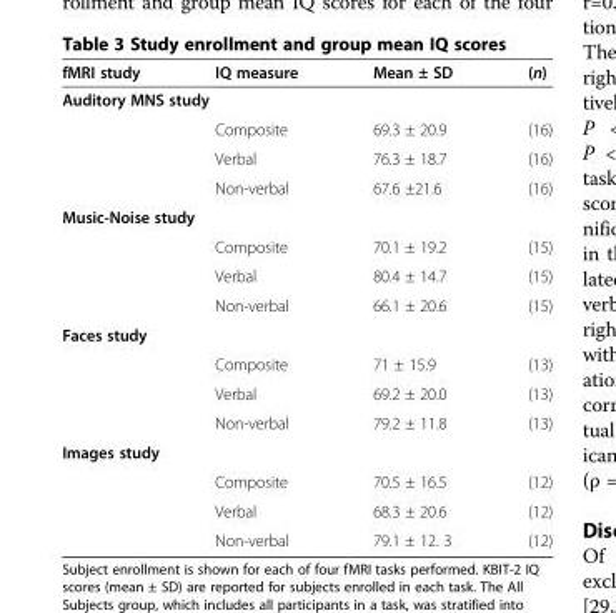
<table><thead><tr><td>fMRI study</td><td>IQ measure</td><td>Mean ± SD</td><td>(n)</td></tr></thead><tbody><tr><td colspan="4">Auditory MNS study</td></tr><tr><td></td><td>Composite</td><td>69.3 ± 20.9</td><td>(16)</td></tr><tr><td></td><td>Verbal</td><td>76.3 ± 18.7</td><td>(16)</td></tr><tr><td></td><td>Non-verbal</td><td>67.6 ±21.6</td><td>(16)</td></tr><tr><td colspan="4">Music-Noise study</td></tr><tr><td></td><td>Composite</td><td>70.1 ± 19.2</td><td>(15)</td></tr><tr><td></td><td>Verbal</td><td>80.4 ± 14.7</td><td>(15)</td></tr><tr><td></td><td>Non-verbal</td><td>66.1 ± 20.6</td><td>(15)</td></tr><tr><td colspan="4">Faces study</td></tr><tr><td></td><td>Composite</td><td>71 ± 15.9</td><td>(13)</td></tr><tr><td></td><td>Verbal</td><td>69.2 ± 20.0</td><td>(13)</td></tr><tr><td></td><td>Non-verbal</td><td>79.2 ± 11.8</td><td>(13)</td></tr><tr><td colspan="4">Images study</td></tr><tr><td></td><td>Composite</td><td>70.5 ± 16.5</td><td>(12)</td></tr><tr><td></td><td>Verbal</td><td>68.3 ± 20.6</td><td>(12)</td></tr><tr><td></td><td>Non-verbal</td><td>79.1 ± 12. 3</td><td>(12)</td></tr></tbody></table>